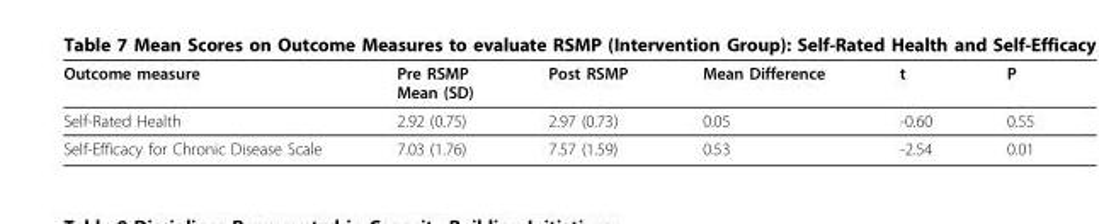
<table><thead><tr><td>Outcome measure</td><td>Pre RSMP Mean (SD)</td><td>Post RSMP</td><td>Mean Difference</td><td>t</td><td>P</td></tr></thead><tbody><tr><td>Self-Rated Health</td><td>2.92 (0.75)</td><td>2.97 (0.73)</td><td>0.05</td><td>-0.60</td><td>0.55</td></tr><tr><td>Self-Efficacy for Chronic Disease Scale</td><td>7.03 (1.76)</td><td>7.57 (1.59)</td><td>0.53</td><td>-2.54</td><td>0.01</td></tr></tbody></table>